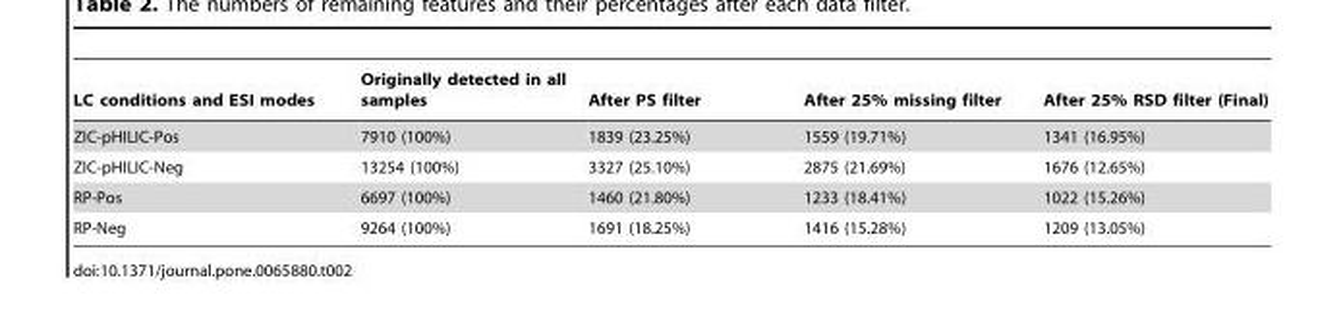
<table><thead><tr><td>LC conditions and ESI modes</td><td>Originally detected in all samples</td><td>After PS filter</td><td>After 25% missing filter</td><td>After 25% RSD filter (Final)</td></tr></thead><tbody><tr><td>ZIC-pHILIC-Pos</td><td>7910 (100%)</td><td>1839 (23.25%)</td><td>1559 (19.71%)</td><td>1341 (16.95%)</td></tr><tr><td>ZIC-pHILIC-Neg</td><td>13254 (100%)</td><td>3327 (25.10%)</td><td>2875 (21.69%)</td><td>1676 (12.65%)</td></tr><tr><td>RP-Pos</td><td>6697 (100%)</td><td>1460 (21.80%)</td><td>1233 (18.41%)</td><td>1022 (15.26%)</td></tr><tr><td>RP-Neg</td><td>9264 (100%)</td><td>1691 (18.25%)</td><td>1416 (15.28%)</td><td>1209 (13.05%)</td></tr></tbody></table>